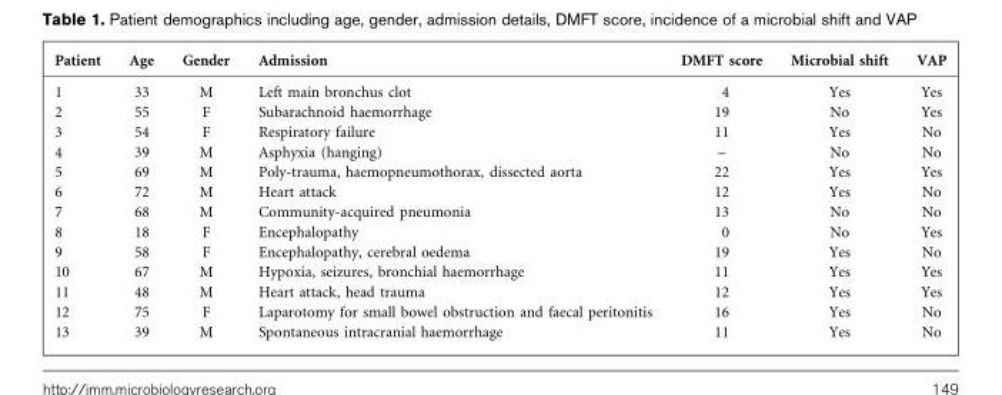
<table><thead><tr><td>Patient</td><td>Age</td><td>Gender</td><td>Admission</td><td>DMFT score</td><td>Microbial shift</td><td>VAP</td></tr></thead><tbody><tr><td>1</td><td>33</td><td>M</td><td>Left main bronchus clot</td><td>4</td><td>Yes</td><td>Yes</td></tr><tr><td>2</td><td>55</td><td>F</td><td>Subarachnoid haemorrhage</td><td>19</td><td>No</td><td>Yes</td></tr><tr><td>3</td><td>54</td><td>F</td><td>Respiratory failure</td><td>11</td><td>Yes</td><td>No</td></tr><tr><td>4</td><td>39</td><td>M</td><td>Asphyxia (hanging)</td><td>–</td><td>No</td><td>No</td></tr><tr><td>5</td><td>69</td><td>M</td><td>Poly-trauma, haemopneumothorax, dissected aorta</td><td>22</td><td>Yes</td><td>Yes</td></tr><tr><td>6</td><td>72</td><td>M</td><td>Heart attack</td><td>12</td><td>Yes</td><td>No</td></tr><tr><td>7</td><td>68</td><td>M</td><td>Community-acquired pneumonia</td><td>13</td><td>No</td><td>No</td></tr><tr><td>8</td><td>18</td><td>F</td><td>Encephalopathy</td><td>0</td><td>No</td><td>Yes</td></tr><tr><td>9</td><td>58</td><td>F</td><td>Encephalopathy, cerebral oedema</td><td>19</td><td>Yes</td><td>No</td></tr><tr><td>10</td><td>67</td><td>M</td><td>Hypoxia, seizures, bronchial haemorrhage</td><td>11</td><td>Yes</td><td>Yes</td></tr><tr><td>11</td><td>48</td><td>M</td><td>Heart attack, head trauma</td><td>12</td><td>Yes</td><td>Yes</td></tr><tr><td>12</td><td>75</td><td>F</td><td>Laparotomy for small bowel obstruction and faecal peritonitis</td><td>16</td><td>Yes</td><td>No</td></tr><tr><td>13</td><td>39</td><td>M</td><td>Spontaneous intracranial haemorrhage</td><td>11</td><td>Yes</td><td>No</td></tr></tbody></table>